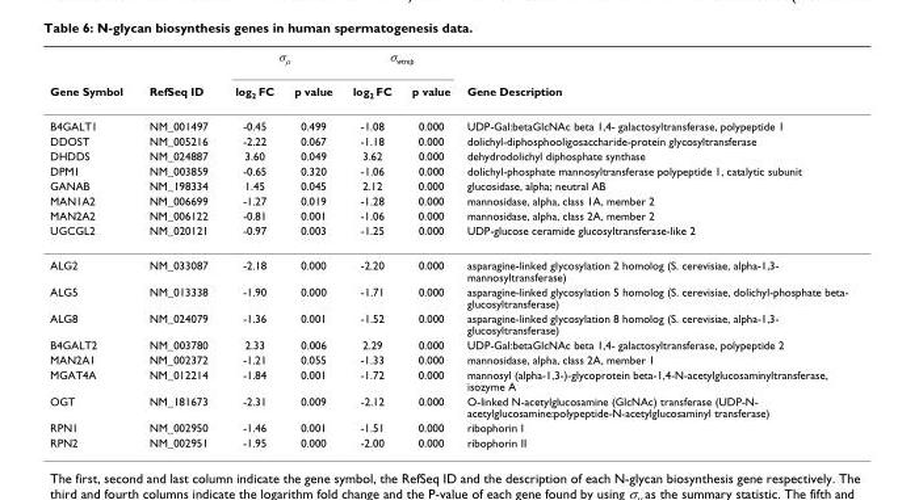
<table><thead><tr><td rowspan="2">Gene Symbol</td><td rowspan="2">RefSeq ID</td><td colspan="2">σ<sub>μ</sub></td><td colspan="2">σ<sub>wtrep</sub></td><td rowspan="2">Gene Description</td></tr><tr><td>log<sub>2</sub> FC</td><td>p value</td><td>log<sub>2</sub> FC</td><td>p value</td></tr></thead><tbody><tr><td>B4GALT1</td><td>NM_001497</td><td>-0.45</td><td>0.499</td><td>-1.08</td><td>0.000</td><td>UDP-Gal:betaGlcNAc beta 1,4- galactosyltransferase, polypeptide 1</td></tr><tr><td>DDOST</td><td>NM_005216</td><td>-2.22</td><td>0.067</td><td>-1.18</td><td>0.000</td><td>dolichyl-diphosphooligosaccharide-protein glycosyltransferase</td></tr><tr><td>DHDDS</td><td>NM_024887</td><td>3.60</td><td>0.049</td><td>3.62</td><td>0.000</td><td>dehydrodolichyl diphosphate synthase</td></tr><tr><td>DPM1</td><td>NM_003859</td><td>-0.65</td><td>0.320</td><td>-1.06</td><td>0.000</td><td>dolichyl-phosphate mannosyltransferase polypeptide 1, catalytic subunit</td></tr><tr><td>GANAB</td><td>NM_198334</td><td>1.45</td><td>0.045</td><td>2.12</td><td>0.000</td><td>glucosidase, alpha; neutral AB</td></tr><tr><td>MAN1A2</td><td>NM_006699</td><td>-1.27</td><td>0.019</td><td>-1.28</td><td>0.000</td><td>mannosidase, alpha, class 1A, member 2</td></tr><tr><td>MAN2A2</td><td>NM_006122</td><td>-0.81</td><td>0.001</td><td>-1.06</td><td>0.000</td><td>mannosidase, alpha, class 2A, member 2</td></tr><tr><td>UGCGL2</td><td>NM_020121</td><td>-0.97</td><td>0.003</td><td>-1.25</td><td>0.000</td><td>UDP-glucose ceramide glucosyltransferase-like 2</td></tr><tr><td>ALG2</td><td>NM_033087</td><td>-2.18</td><td>0.000</td><td>-2.20</td><td>0.000</td><td>asparagine-linked glycosylation 2 homolog (S. cerevisiae, alpha-1,3- mannosyltransferase)</td></tr><tr><td>ALG5</td><td>NM_013338</td><td>-1.90</td><td>0.000</td><td>-1.71</td><td>0.000</td><td>asparagine-linked glycosylation 5 homolog (S. cerevisiae, dolichyl-phosphate beta- glucosyltransferase)</td></tr><tr><td>ALG8</td><td>NM_024079</td><td>-1.36</td><td>0.001</td><td>-1.52</td><td>0.000</td><td>asparagine-linked glycosylation 8 homolog (S. cerevisiae, alpha-1,3- glucosyltransferase)</td></tr><tr><td>B4GALT2</td><td>NM_003780</td><td>2.33</td><td>0.006</td><td>2.29</td><td>0.000</td><td>UDP-Gal:betaGlcNAc beta 1,4- galactosyltransferase, polypeptide 2</td></tr><tr><td>MAN2A1</td><td>NM_002372</td><td>-1.21</td><td>0.055</td><td>-1.33</td><td>0.000</td><td>mannosidase, alpha, class 2A, member 1</td></tr><tr><td>MGAT4A</td><td>NM_012214</td><td>-1.84</td><td>0.001</td><td>-1.72</td><td>0.000</td><td>mannosyl (alpha-1,3-)-glycoprotein beta-1,4-N-acetylglucosaminyltransferase, isozyme A</td></tr><tr><td>OGT</td><td>NM_181673</td><td>-2.31</td><td>0.009</td><td>-2.12</td><td>0.000</td><td>O-linked N-acetylglucosamine (GlcNAc) transferase (UDP-N- acetylglucosamine:polypeptide-N-acetylglucosaminyl transferase)</td></tr><tr><td>RPN1</td><td>NM_002950</td><td>-1.46</td><td>0.001</td><td>-1.51</td><td>0.000</td><td>ribophorin I</td></tr><tr><td>RPN2</td><td>NM_002951</td><td>-1.95</td><td>0.000</td><td>-2.00</td><td>0.000</td><td>ribophorin II</td></tr></tbody></table>